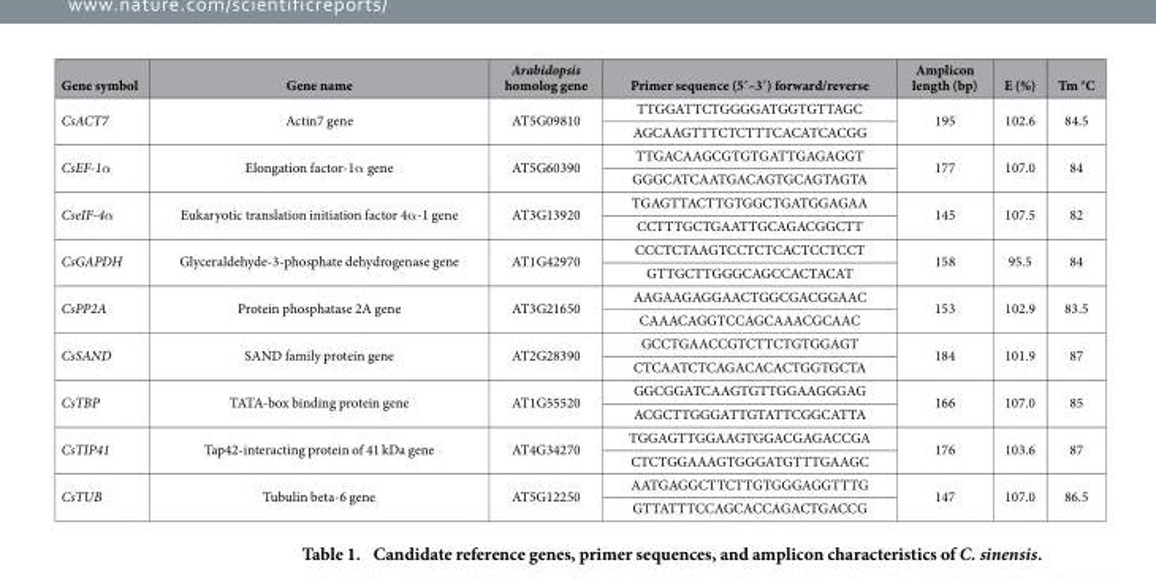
<table><thead><tr><td>Gene symbol</td><td>Gene name</td><td>Arabidopsis homolog gene</td><td>Primer sequence (5′–3′) forward/reverse</td><td>Amplicon length (bp)</td><td>E (%)</td><td>Tm °C</td></tr></thead><tbody><tr><td rowspan="2">CsACT7</td><td rowspan="2">Actin7 gene</td><td rowspan="2">AT5G09810</td><td>TTGGATTCTGGGGATGGTGTTAGC</td><td rowspan="2">195</td><td rowspan="2">102.6</td><td rowspan="2">84.5</td></tr><tr><td>AGCAAGTTTCTCTTTCACATCACGG</td></tr><tr><td rowspan="2">CsEF-1α</td><td rowspan="2">Elongation factor-1α gene</td><td rowspan="2">AT5G60390</td><td>TTGACAAGCGTGTGATTGAGAGGT</td><td rowspan="2">177</td><td rowspan="2">107.0</td><td rowspan="2">84</td></tr><tr><td>GGGCATCAATGACAGTGCAGTAGTA</td></tr><tr><td rowspan="2">CseIF-4α</td><td rowspan="2">Eukaryotic translation initiation factor 4α -1 gene</td><td rowspan="2">AT3G13920</td><td>TGAGTTACTTGTGGCTGATGGAGAA</td><td rowspan="2">145</td><td rowspan="2">107.5</td><td rowspan="2">82</td></tr><tr><td>CCTTTGCTGAATTGCAGACGGCTT</td></tr><tr><td rowspan="2">CsGAPDH</td><td rowspan="2">Glyceraldehyde-3-phosphate dehydrogenase gene</td><td rowspan="2">AT1G42970</td><td>CCCTCTAAGTCCTCTCACTCCTCCT</td><td rowspan="2">158</td><td rowspan="2">95.5</td><td rowspan="2">84</td></tr><tr><td>GTTGCTTGGGCAGCCACTACAT</td></tr><tr><td rowspan="2">CsPP2A</td><td rowspan="2">Protein phosphatase 2A gene</td><td rowspan="2">AT3G21650</td><td>AAGAAGAGGAACTGGCGACGGAAC</td><td rowspan="2">153</td><td rowspan="2">102.9</td><td rowspan="2">83.5</td></tr><tr><td>CAAACAGGTCCAGCAAACGCAAC</td></tr><tr><td rowspan="2">CsSAND</td><td rowspan="2">SAND family protein gene</td><td rowspan="2">AT2G28390</td><td>GCCTGAACCGTCTTCTGTGGAGT</td><td rowspan="2">184</td><td rowspan="2">101.9</td><td rowspan="2">87</td></tr><tr><td>CTCAATCTCAGACACACTGGTGCTA</td></tr><tr><td rowspan="2">CsTBP</td><td rowspan="2">TATA-box binding protein gene</td><td rowspan="2">AT1G55520</td><td>GGCGGATCAAGTGTTGGAAGGGAG</td><td rowspan="2">166</td><td rowspan="2">107.0</td><td rowspan="2">85</td></tr><tr><td>ACGCTTGGGATTGTATTCGGCATTA</td></tr><tr><td rowspan="2">CsTIP41</td><td rowspan="2">Tap42-interacting protein of 41 kDa gene</td><td rowspan="2">AT4G34270</td><td>TGGAGTTGGAAGTGGACGAGACCGA</td><td rowspan="2">176</td><td rowspan="2">103.6</td><td rowspan="2">87</td></tr><tr><td>CTCTGGAAAGTGGGATGTTTGAAGC</td></tr><tr><td rowspan="2">CsTUB</td><td rowspan="2">Tubulin beta-6 gene</td><td rowspan="2">AT5G12250</td><td>AATGAGGCTTCTTGTGGGAGGTTTG</td><td rowspan="2">147</td><td rowspan="2">107.0</td><td rowspan="2">86.5</td></tr><tr><td>GTTATTTCCAGCACCAGACTGACCG</td></tr></tbody></table>